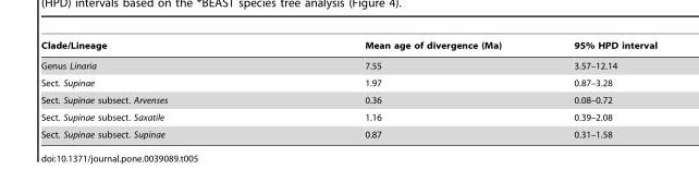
<table><thead><tr><td>Clade/Lineage</td><td>Mean age of divergence (Ma)</td><td>95% HPD interval</td></tr></thead><tbody><tr><td>Genus Linaria</td><td>7.55</td><td>3.57–12.14</td></tr><tr><td>Sect. Supinae</td><td>1.97</td><td>0.87–3.28</td></tr><tr><td>Sect. Supinae subsect. Arvenses</td><td>0.36</td><td>0.08–0.72</td></tr><tr><td>Sect. Supinae subsect. Saxatile</td><td>1.16</td><td>0.39–2.08</td></tr><tr><td>Sect. Supinae subsect. Supinae</td><td>0.87</td><td>0.31–1.58</td></tr></tbody></table>